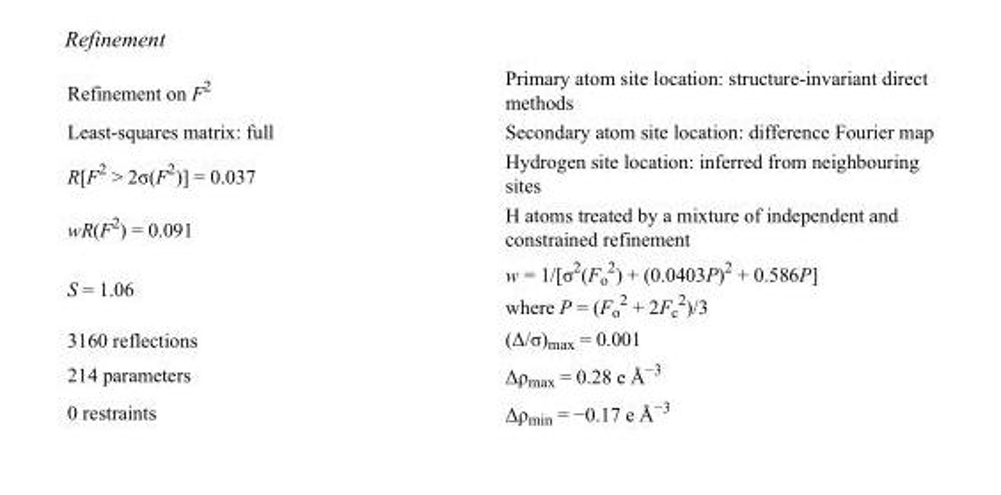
<table><tbody><tr><td>Refinement on F<sup>2</sup></td><td>Primary atom site location: structure-invariant direct methods</td></tr><tr><td>Least-squares matrix: full</td><td>Secondary atom site location: difference Fourier map</td></tr><tr><td>R[F<sup>2</sup> &gt; 2σ(F<sup>2</sup>)] = 0.037</td><td>Hydrogen site location: inferred from neighbouring sites</td></tr><tr><td>wR(F<sup>2</sup>) = 0.091</td><td>H atoms treated by a mixture of independent and constrained refinement</td></tr><tr><td>S = 1.06</td><td>w = 1/[σ<sup>2</sup>(F<sub>o</sub> <sup>2</sup>) + (0.0403P)<sup>2</sup> + 0.586P] where P = (F<sub>o</sub> <sup>2</sup> + 2F<sub>c</sub> <sup>2</sup>)/3</td></tr><tr><td>3160 reflections</td><td>(Δ/σ)<sub>max</sub> = 0.001</td></tr><tr><td>214 parameters</td><td>Δρ<sub>max</sub> = 0.28 e Å<sup>−3</sup></td></tr><tr><td>0 restraints</td><td>Δρ<sub>min</sub> = −0.17 e Å<sup>−3</sup></td></tr></tbody></table>